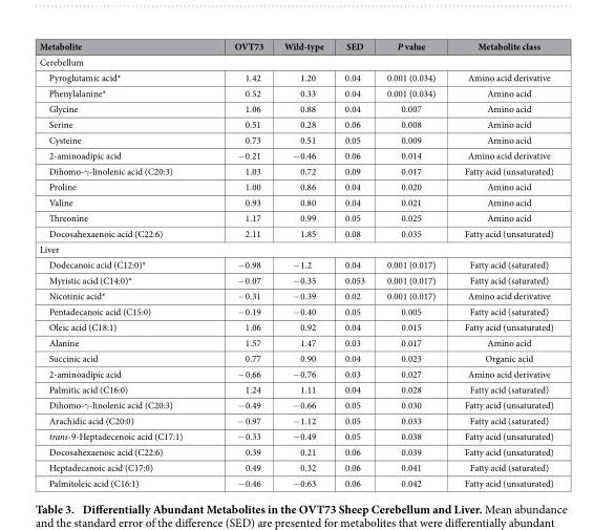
<table><thead><tr><td>Metabolite</td><td>OVT73</td><td>Wild-type</td><td>SED</td><td>P value</td><td>Metabolite class</td></tr></thead><tbody><tr><td colspan="6">Cerebellum</td></tr><tr><td>Pyroglutamic acid*</td><td>1.42</td><td>1.20</td><td>0.04</td><td>0.001 (0.034)</td><td>Amino acid derivative</td></tr><tr><td>Phenylalanine*</td><td>0.52</td><td>0.33</td><td>0.04</td><td>0.001 (0.034)</td><td>Amino acid</td></tr><tr><td>Glycine</td><td>1.06</td><td>0.88</td><td>0.04</td><td>0.007</td><td>Amino acid</td></tr><tr><td>Serine</td><td>0.51</td><td>0.28</td><td>0.06</td><td>0.008</td><td>Amino acid</td></tr><tr><td>Cysteine</td><td>0.73</td><td>0.51</td><td>0.05</td><td>0.009</td><td>Amino acid</td></tr><tr><td>2-aminoadipic acid</td><td>− 0.21</td><td>− 0.46</td><td>0.06</td><td>0.014</td><td>Amino acid derivative</td></tr><tr><td>Dihomo-γ -linolenic acid (C20:3)</td><td>1.03</td><td>0.72</td><td>0.09</td><td>0.017</td><td>Fatty acid (unsaturated)</td></tr><tr><td>Proline</td><td>1.00</td><td>0.86</td><td>0.04</td><td>0.020</td><td>Amino acid</td></tr><tr><td>Valine</td><td>0.93</td><td>0.80</td><td>0.04</td><td>0.021</td><td>Amino acid</td></tr><tr><td>Threonine</td><td>1.17</td><td>0.99</td><td>0.05</td><td>0.025</td><td>Amino acid</td></tr><tr><td>Docosahexaenoic acid (C22:6)</td><td>2.11</td><td>1.85</td><td>0.08</td><td>0.035</td><td>Fatty acid (unsaturated)</td></tr><tr><td colspan="6">Liver</td></tr><tr><td>Dodecanoic acid (C12:0)*</td><td>− 0.98</td><td>− 1.2</td><td>0.04</td><td>0.001 (0.017)</td><td>Fatty acid (saturated)</td></tr><tr><td>Myristic acid (C14:0)*</td><td>− 0.07</td><td>− 0.35</td><td>0.053</td><td>0.001 (0.017)</td><td>Fatty acid (saturated)</td></tr><tr><td>Nicotinic acid*</td><td>− 0.31</td><td>− 0.39</td><td>0.02</td><td>0.001 (0.017)</td><td>Amino acid derivative</td></tr><tr><td>Pentadecanoic acid (C15:0)</td><td>− 0.19</td><td>− 0.40</td><td>0.05</td><td>0.005</td><td>Fatty acid (saturated)</td></tr><tr><td>Oleic acid (C18:1)</td><td>1.06</td><td>0.92</td><td>0.04</td><td>0.015</td><td>Fatty acid (unsaturated)</td></tr><tr><td>Alanine</td><td>1.57</td><td>1.47</td><td>0.03</td><td>0.017</td><td>Amino acid</td></tr><tr><td>Succinic acid</td><td>0.77</td><td>0.90</td><td>0.04</td><td>0.023</td><td>Organic acid</td></tr><tr><td>2-aminoadipic acid</td><td>− 0.66</td><td>− 0.76</td><td>0.03</td><td>0.027</td><td>Amino acid derivative</td></tr><tr><td>Palmitic acid (C16:0)</td><td>1.24</td><td>1.11</td><td>0.04</td><td>0.028</td><td>Fatty acid (saturated)</td></tr><tr><td>Dihomo-γ -linolenic acid (C20:3)</td><td>− 0.49</td><td>− 0.66</td><td>0.05</td><td>0.030</td><td>Fatty acid (unsaturated)</td></tr><tr><td>Arachidic acid (C20:0)</td><td>− 0.97</td><td>− 1.12</td><td>0.05</td><td>0.033</td><td>Fatty acid (saturated)</td></tr><tr><td>trans-9-Heptadecenoic acid (C17:1)</td><td>− 0.33</td><td>− 0.49</td><td>0.05</td><td>0.038</td><td>Fatty acid (unsaturated)</td></tr><tr><td>Docosahexaenoic acid (C22:6)</td><td>0.39</td><td>0.21</td><td>0.06</td><td>0.039</td><td>Fatty acid (unsaturated)</td></tr><tr><td>Heptadecanoic acid (C17:0)</td><td>0.49</td><td>0.32</td><td>0.06</td><td>0.041</td><td>Fatty acid (saturated)</td></tr><tr><td>Palmitoleic acid (C16:1)</td><td>− 0.46</td><td>− 0.63</td><td>0.06</td><td>0.042</td><td>Fatty acid (unsaturated)</td></tr></tbody></table>